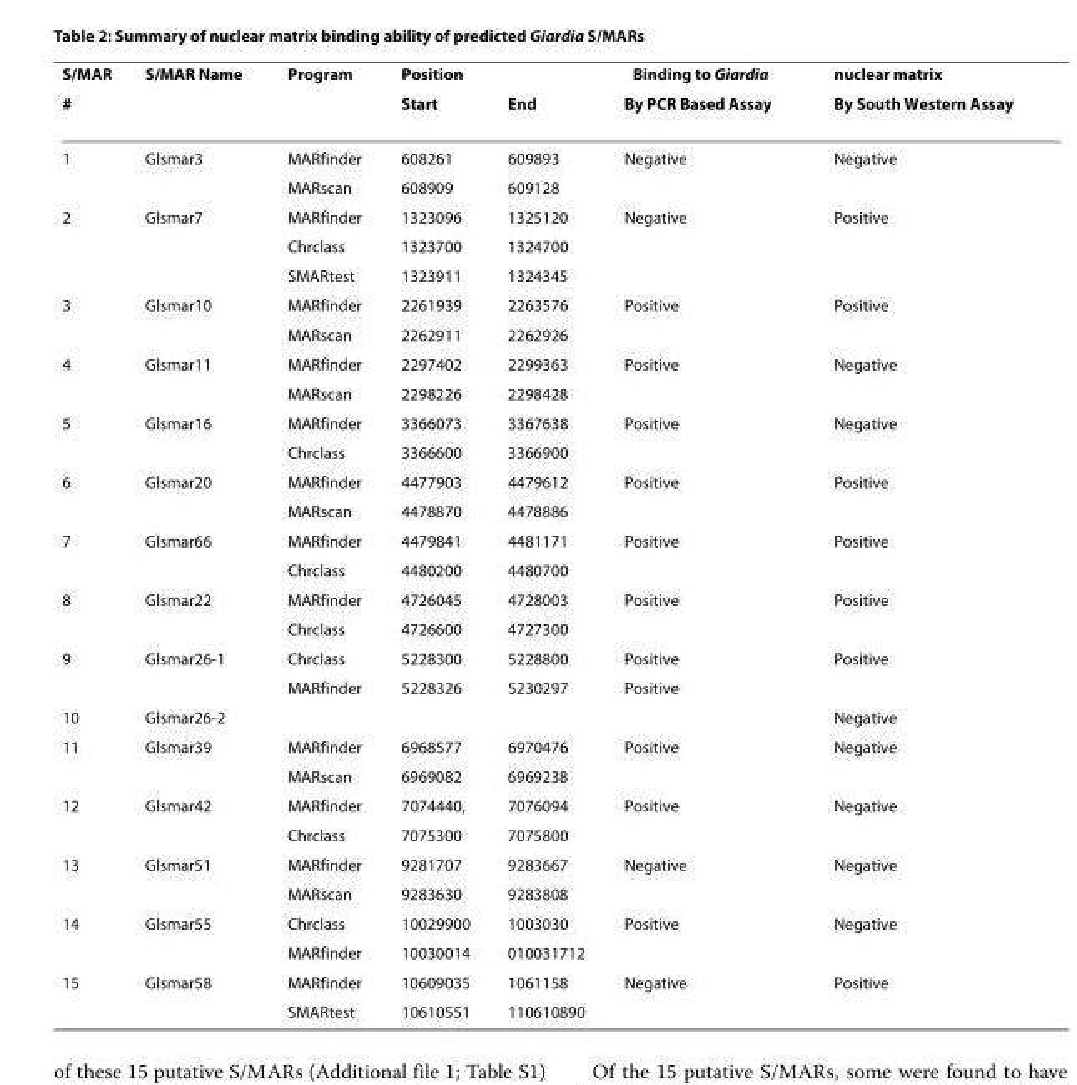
<table><thead><tr><td rowspan="2">S/MAR #</td><td rowspan="2">S/MAR Name</td><td rowspan="2">Program</td><td rowspan="2">Position Start</td><td rowspan="2">End</td><td rowspan="2">Binding to Giardia By PCR Based Assay</td><td rowspan="2">nuclear matrix By South Western Assay</td></tr><tr></tr></thead><tbody><tr><td rowspan="2">1</td><td>Glsmar3</td><td>MARfinder</td><td>608261</td><td>609893</td><td>Negative</td><td>Negative</td></tr><tr><td></td><td>MARscan</td><td>608909</td><td>609128</td><td></td><td></td></tr><tr><td rowspan="3">2</td><td>Glsmar7</td><td>MARfinder</td><td>1323096</td><td>1325120</td><td>Negative</td><td>Positive</td></tr><tr><td></td><td>Chrclass</td><td>1323700</td><td>1324700</td><td></td><td></td></tr><tr><td></td><td>SMARtest</td><td>1323911</td><td>1324345</td><td></td><td></td></tr><tr><td rowspan="2">3</td><td>Glsmar10</td><td>MARfinder</td><td>2261939</td><td>2263576</td><td>Positive</td><td>Positive</td></tr><tr><td></td><td>MARscan</td><td>2262911</td><td>2262926</td><td></td><td></td></tr><tr><td rowspan="2">4</td><td>Glsmar11</td><td>MARfinder</td><td>2297402</td><td>2299363</td><td>Positive</td><td>Negative</td></tr><tr><td></td><td>MARscan</td><td>2298226</td><td>2298428</td><td></td><td></td></tr><tr><td rowspan="2">5</td><td>Glsmar16</td><td>MARfinder</td><td>3366073</td><td>3367638</td><td>Positive</td><td>Negative</td></tr><tr><td></td><td>Chrclass</td><td>3366600</td><td>3366900</td><td></td><td></td></tr><tr><td rowspan="2">6</td><td>Glsmar20</td><td>MARfinder</td><td>4477903</td><td>4479612</td><td>Positive</td><td>Positive</td></tr><tr><td></td><td>MARscan</td><td>4478870</td><td>4478886</td><td></td><td></td></tr><tr><td rowspan="2">7</td><td>Glsmar66</td><td>MARfinder</td><td>4479841</td><td>4481171</td><td>Positive</td><td>Positive</td></tr><tr><td></td><td>Chrclass</td><td>4480200</td><td>4480700</td><td></td><td></td></tr><tr><td rowspan="2">8</td><td>Glsmar22</td><td>MARfinder</td><td>4726045</td><td>4728003</td><td>Positive</td><td>Positive</td></tr><tr><td></td><td>Chrclass</td><td>4726600</td><td>4727300</td><td></td><td></td></tr><tr><td rowspan="2">9</td><td>Glsmar26-1</td><td>Chrclass</td><td>5228300</td><td>5228800</td><td>Positive</td><td>Positive</td></tr><tr><td></td><td>MARfinder</td><td>5228326</td><td>5230297</td><td>Positive</td><td></td></tr><tr><td>10</td><td>Glsmar26-2</td><td></td><td></td><td></td><td></td><td>Negative</td></tr><tr><td rowspan="2">11</td><td>Glsmar39</td><td>MARfinder</td><td>6968577</td><td>6970476</td><td>Positive</td><td>Negative</td></tr><tr><td></td><td>MARscan</td><td>6969082</td><td>6969238</td><td></td><td></td></tr><tr><td rowspan="2">12</td><td>Glsmar42</td><td>MARfinder</td><td>7074440,</td><td>7076094</td><td>Positive</td><td>Negative</td></tr><tr><td></td><td>Chrclass</td><td>7075300</td><td>7075800</td><td></td><td></td></tr><tr><td rowspan="2">13</td><td>Glsmar51</td><td>MARfinder</td><td>9281707</td><td>9283667</td><td>Negative</td><td>Negative</td></tr><tr><td></td><td>MARscan</td><td>9283630</td><td>9283808</td><td></td><td></td></tr><tr><td rowspan="2">14</td><td>Glsmar55</td><td>Chrclass</td><td>10029900</td><td>1003030</td><td>Positive</td><td>Negative</td></tr><tr><td></td><td>MARfinder</td><td>10030014</td><td>010031712</td><td></td><td></td></tr><tr><td rowspan="2">15</td><td>Glsmar58</td><td>MARfinder</td><td>10609035</td><td>1061158</td><td>Negative</td><td>Positive</td></tr><tr><td></td><td>SMARtest</td><td>10610551</td><td>110610890</td><td></td><td></td></tr></tbody></table>